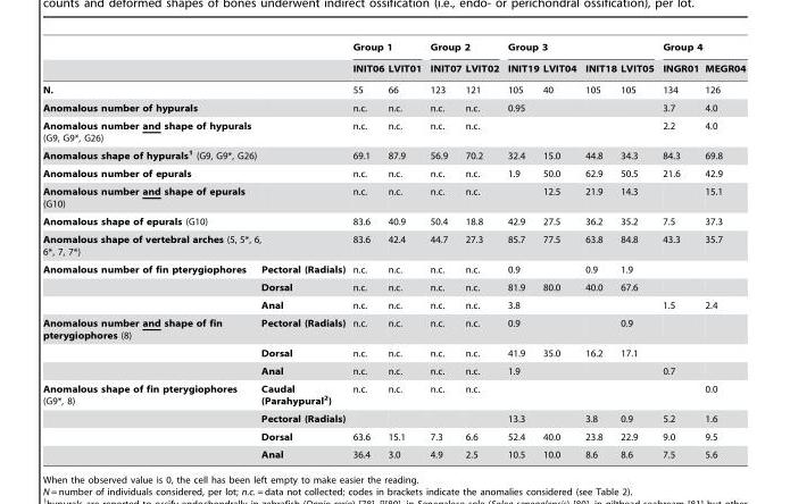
<table><thead><tr><td rowspan="2"></td><td rowspan="2"></td><td colspan="2">Group 1</td><td colspan="2">Group 2</td><td colspan="4">Group 3</td><td colspan="2">Group 4</td></tr><tr><td>INIT06</td><td>LVIT01</td><td>INIT07</td><td>LVIT02</td><td>INIT19</td><td>LVIT04</td><td>INIT18</td><td>LVIT05</td><td>INGR01</td><td>MEGR04</td></tr></thead><tbody><tr><td>N.</td><td></td><td>55</td><td>66</td><td>123</td><td>121</td><td>105</td><td>40</td><td>105</td><td>105</td><td>134</td><td>126</td></tr><tr><td>Anomalous number of hypurals</td><td></td><td>n.c.</td><td>n.c.</td><td>n.c.</td><td>n.c.</td><td>0.95</td><td></td><td></td><td></td><td>3.7</td><td>4.0</td></tr><tr><td>Anomalous number and shape of hypurals (G9, G9*, G26)</td><td></td><td>n.c.</td><td>n.c.</td><td>n.c.</td><td>n.c.</td><td></td><td></td><td></td><td></td><td>2.2</td><td>4.0</td></tr><tr><td>Anomalous shape of hypurals1 (G9, G9*, G26)</td><td></td><td>69.1</td><td>87.9</td><td>56.9</td><td>70.2</td><td>32.4</td><td>15.0</td><td>44.8</td><td>34.3</td><td>84.3</td><td>69.8</td></tr><tr><td>Anomalous number of epurals</td><td></td><td>n.c.</td><td>n.c.</td><td>n.c.</td><td>n.c.</td><td>1.9</td><td>50.0</td><td>62.9</td><td>50.5</td><td>21.6</td><td>42.9</td></tr><tr><td>Anomalous number and shape of epurals (G10)</td><td></td><td>n.c.</td><td>n.c.</td><td>n.c.</td><td>n.c.</td><td></td><td>12.5</td><td>21.9</td><td>14.3</td><td></td><td>15.1</td></tr><tr><td>Anomalous shape of epurals (G10)</td><td></td><td>83.6</td><td>40.9</td><td>50.4</td><td>18.8</td><td>42.9</td><td>27.5</td><td>36.2</td><td>35.2</td><td>7.5</td><td>37.3</td></tr><tr><td>Anomalous shape of vertebral arches (5, 5*, 6, 6*, 7, 7*)</td><td></td><td>83.6</td><td>42.4</td><td>44.7</td><td>27.3</td><td>85.7</td><td>77.5</td><td>63.8</td><td>84.8</td><td>43.3</td><td>35.7</td></tr><tr><td rowspan="3">Anomalous number of fin pterygiophores</td><td>Pectoral (Radials)</td><td>n.c.</td><td>n.c.</td><td>n.c.</td><td>n.c.</td><td>0.9</td><td></td><td>0.9</td><td>1.9</td><td></td><td></td></tr><tr><td>Dorsal</td><td>n.c.</td><td>n.c.</td><td>n.c.</td><td>n.c.</td><td>81.9</td><td>80.0</td><td>40.0</td><td>67.6</td><td></td><td></td></tr><tr><td>Anal</td><td>n.c.</td><td>n.c.</td><td>n.c.</td><td>n.c.</td><td>3.8</td><td></td><td></td><td></td><td>1.5</td><td>2.4</td></tr><tr><td rowspan="3">Anomalous number and shape of fin pterygiophores (8)</td><td>Pectoral (Radials)</td><td>n.c.</td><td>n.c.</td><td>n.c.</td><td>n.c.</td><td>0.9</td><td></td><td></td><td>0.9</td><td></td><td></td></tr><tr><td>Dorsal</td><td>n.c.</td><td>n.c.</td><td>n.c.</td><td>n.c.</td><td>41.9</td><td>35.0</td><td>16.2</td><td>17.1</td><td></td><td></td></tr><tr><td>Anal</td><td>n.c.</td><td>n.c.</td><td>n.c.</td><td>n.c.</td><td>1.9</td><td></td><td></td><td></td><td>0.7</td><td></td></tr><tr><td rowspan="4">Anomalous shape of fin pterygiophores (G9*, 8)</td><td>Caudal (Parahypural2)</td><td>n.c.</td><td>n.c.</td><td>n.c.</td><td>n.c.</td><td></td><td></td><td></td><td></td><td></td><td>0.0</td></tr><tr><td>Pectoral (Radials)</td><td></td><td></td><td></td><td></td><td>13.3</td><td></td><td>3.8</td><td>0.9</td><td>5.2</td><td>1.6</td></tr><tr><td>Dorsal</td><td>63.6</td><td>15.1</td><td>7.3</td><td>6.6</td><td>52.4</td><td>40.0</td><td>23.8</td><td>22.9</td><td>9.0</td><td>9.5</td></tr><tr><td>Anal</td><td>36.4</td><td>3.0</td><td>4.9</td><td>2.5</td><td>10.5</td><td>10.0</td><td>8.6</td><td>8.6</td><td>7.5</td><td>5.6</td></tr></tbody></table>